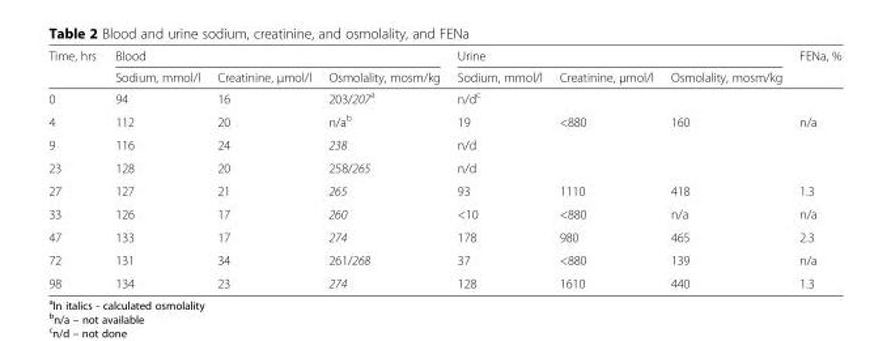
<table><thead><tr><td rowspan="2">Time, hrs</td><td colspan="3">Blood</td><td colspan="3">Urine</td><td rowspan="2">FENa, %</td></tr><tr><td>Sodium, mmol/l</td><td>Creatinine, μmol/l</td><td>Osmolality, mosm/kg</td><td>Sodium, mmol/l</td><td>Creatinine, μmol/l</td><td>Osmolality, mosm/kg</td></tr></thead><tbody><tr><td>0</td><td>94</td><td>16</td><td>203/207<sup>a</sup></td><td colspan="4">n/d<sup>c</sup></td></tr><tr><td>4</td><td>112</td><td>20</td><td>n/a<sup>b</sup></td><td>19</td><td>&lt;880</td><td>160</td><td>n/a</td></tr><tr><td>9</td><td>116</td><td>24</td><td>238</td><td colspan="4">n/d</td></tr><tr><td>23</td><td>128</td><td>20</td><td>258/265</td><td colspan="4">n/d</td></tr><tr><td>27</td><td>127</td><td>21</td><td>265</td><td>93</td><td>1110</td><td>418</td><td>1.3</td></tr><tr><td>33</td><td>126</td><td>17</td><td>260</td><td>&lt;10</td><td>&lt;880</td><td>n/a</td><td>n/a</td></tr><tr><td>47</td><td>133</td><td>17</td><td>274</td><td>178</td><td>980</td><td>465</td><td>2.3</td></tr><tr><td>72</td><td>131</td><td>34</td><td>261/268</td><td>37</td><td>&lt;880</td><td>139</td><td>n/a</td></tr><tr><td>98</td><td>134</td><td>23</td><td>274</td><td>128</td><td>1610</td><td>440</td><td>1.3</td></tr></tbody></table>